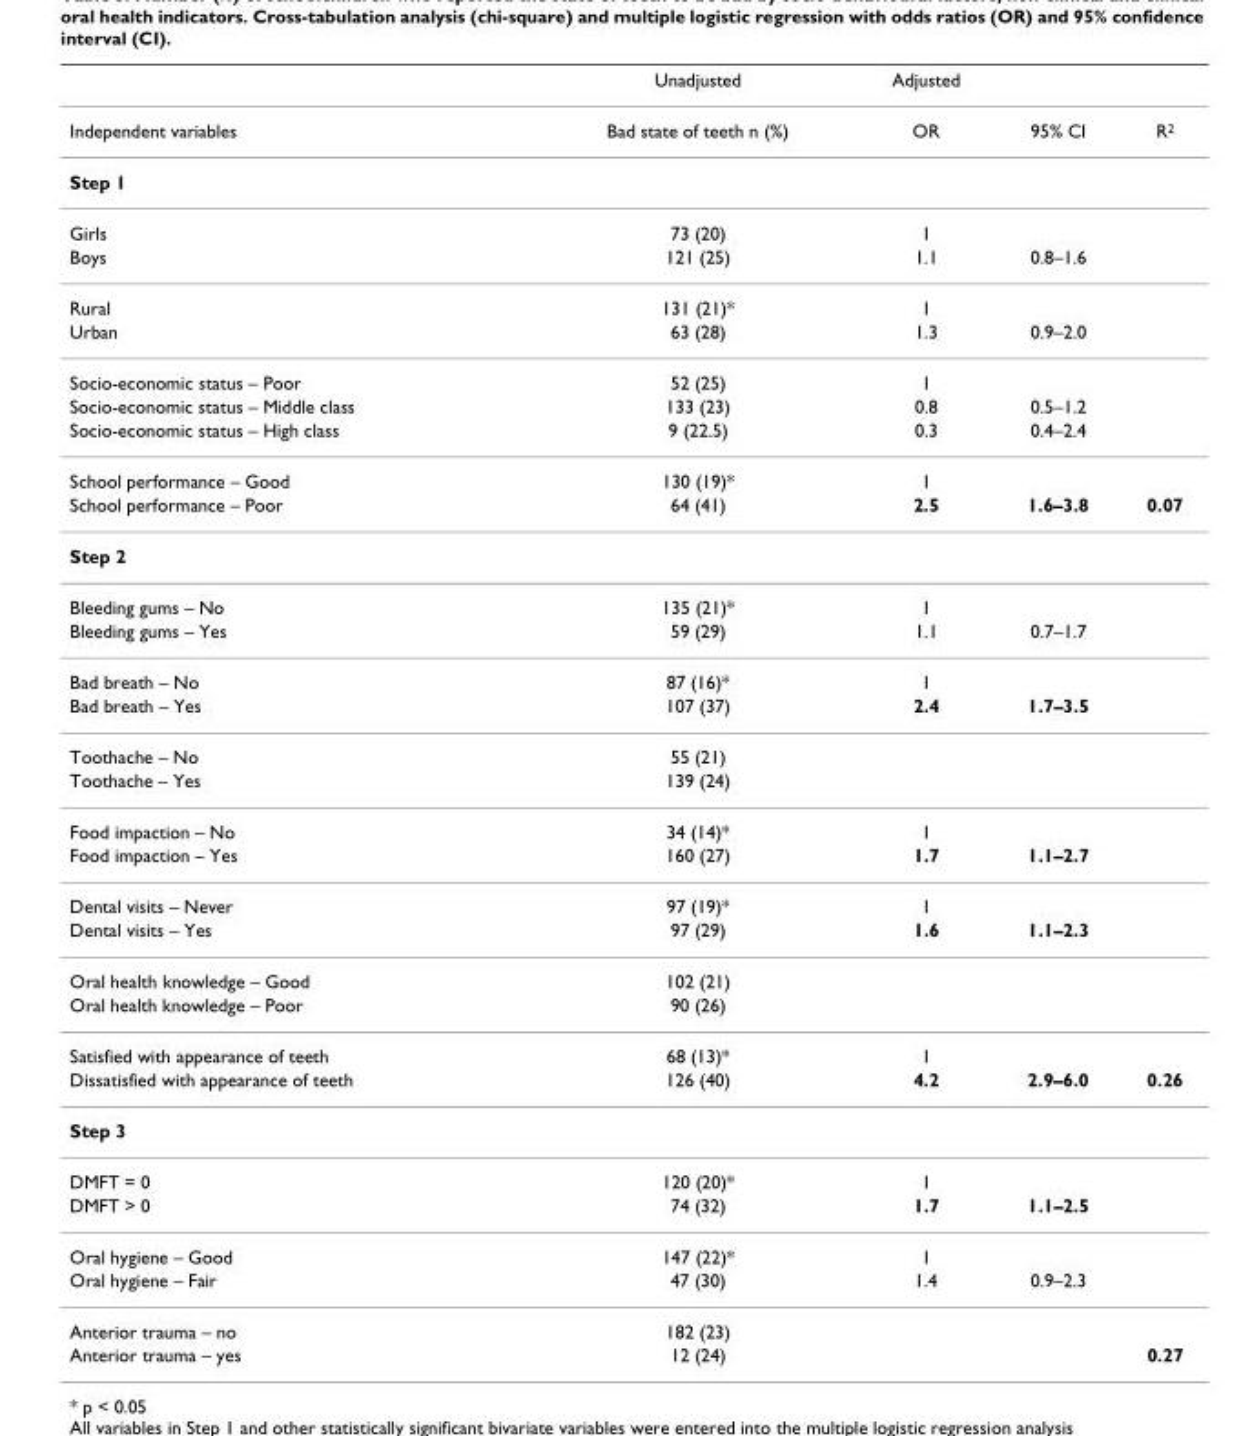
<table><thead><tr><td></td><td>Unadjusted</td><td>Adjusted</td><td></td><td></td></tr></thead><tbody><tr><td>Independent variables</td><td>Bad state of teeth n (%)</td><td>OR</td><td>95% CI</td><td>R<sup>2</sup></td></tr><tr><td colspan="5">Step 1</td></tr><tr><td>Girls</td><td>73 (20)</td><td>1</td><td></td><td></td></tr><tr><td>Boys</td><td>121 (25)</td><td>1.1</td><td>0.8–1.6</td><td></td></tr><tr><td>Rural</td><td>131 (21)*</td><td>1</td><td></td><td></td></tr><tr><td>Urban</td><td>63 (28)</td><td>1.3</td><td>0.9–2.0</td><td></td></tr><tr><td>Socio-economic status – Poor</td><td>52 (25)</td><td>1</td><td></td><td></td></tr><tr><td>Socio-economic status – Middle class</td><td>133 (23)</td><td>0.8</td><td>0.5–1.2</td><td></td></tr><tr><td>Socio-economic status – High class</td><td>9 (22.5)</td><td>0.3</td><td>0.4–2.4</td><td></td></tr><tr><td>School performance – Good</td><td>130 (19)*</td><td>1</td><td></td><td></td></tr><tr><td>School performance – Poor</td><td>64 (41)</td><td>2.5</td><td>1.6–3.8</td><td>0.07</td></tr><tr><td colspan="5">Step 2</td></tr><tr><td>Bleeding gums – No</td><td>135 (21)*</td><td>1</td><td></td><td></td></tr><tr><td>Bleeding gums – Yes</td><td>59 (29)</td><td>1.1</td><td>0.7–1.7</td><td></td></tr><tr><td>Bad breath – No</td><td>87 (16)*</td><td>1</td><td></td><td></td></tr><tr><td>Bad breath – Yes</td><td>107 (37)</td><td>2.4</td><td>1.7–3.5</td><td></td></tr><tr><td>Toothache – No</td><td>55 (21)</td><td></td><td></td><td></td></tr><tr><td>Toothache – Yes</td><td>139 (24)</td><td></td><td></td><td></td></tr><tr><td>Food impaction – No</td><td>34 (14)*</td><td>1</td><td></td><td></td></tr><tr><td>Food impaction – Yes</td><td>160 (27)</td><td>1.7</td><td>1.1–2.7</td><td></td></tr><tr><td>Dental visits – Never</td><td>97 (19)*</td><td>1</td><td></td><td></td></tr><tr><td>Dental visits – Yes</td><td>97 (29)</td><td>1.6</td><td>1.1–2.3</td><td></td></tr><tr><td>Oral health knowledge – Good</td><td>102 (21)</td><td></td><td></td><td></td></tr><tr><td>Oral health knowledge – Poor</td><td>90 (26)</td><td></td><td></td><td></td></tr><tr><td>Satisfied with appearance of teeth</td><td>68 (13)*</td><td>1</td><td></td><td></td></tr><tr><td>Dissatisfied with appearance of teeth</td><td>126 (40)</td><td>4.2</td><td>2.9–6.0</td><td>0.26</td></tr><tr><td colspan="5">Step 3</td></tr><tr><td>DMFT = 0</td><td>120 (20)*</td><td>1</td><td></td><td></td></tr><tr><td>DMFT &gt; 0</td><td>74 (32)</td><td>1.7</td><td>1.1–2.5</td><td></td></tr><tr><td>Oral hygiene – Good</td><td>147 (22)*</td><td>1</td><td></td><td></td></tr><tr><td>Oral hygiene – Fair</td><td>47 (30)</td><td>1.4</td><td>0.9–2.3</td><td></td></tr><tr><td>Anterior trauma – no</td><td>182 (23)</td><td></td><td></td><td></td></tr><tr><td>Anterior trauma – yes</td><td>12 (24)</td><td></td><td></td><td>0.27</td></tr></tbody></table>